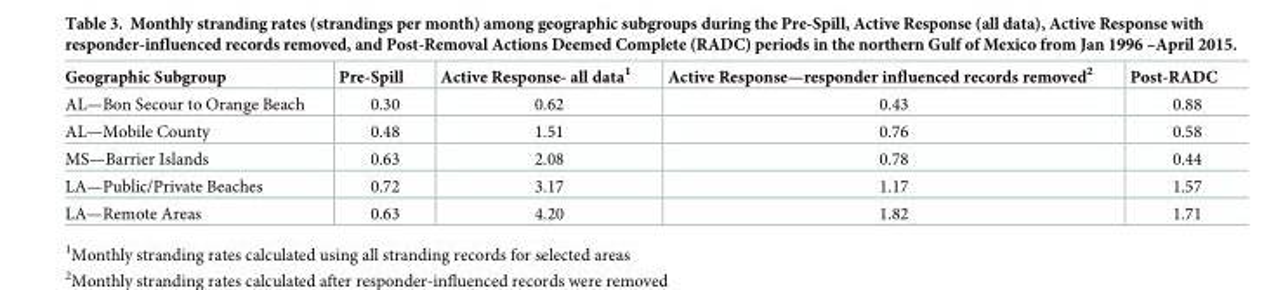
<table><thead><tr><td>Geographic Subgroup</td><td>Pre-Spill</td><td>Active Response- all data<sup>1</sup></td><td>Active Response—responder influenced records removed<sup>2</sup></td><td>Post-RADC</td></tr></thead><tbody><tr><td>AL—Bon Secour to Orange Beach</td><td>0.30</td><td>0.62</td><td>0.43</td><td>0.88</td></tr><tr><td>AL—Mobile County</td><td>0.48</td><td>1.51</td><td>0.76</td><td>0.58</td></tr><tr><td>MS—Barrier Islands</td><td>0.63</td><td>2.08</td><td>0.78</td><td>0.44</td></tr><tr><td>LA—Public/Private Beaches</td><td>0.72</td><td>3.17</td><td>1.17</td><td>1.57</td></tr><tr><td>LA—Remote Areas</td><td>0.63</td><td>4.20</td><td>1.82</td><td>1.71</td></tr></tbody></table>